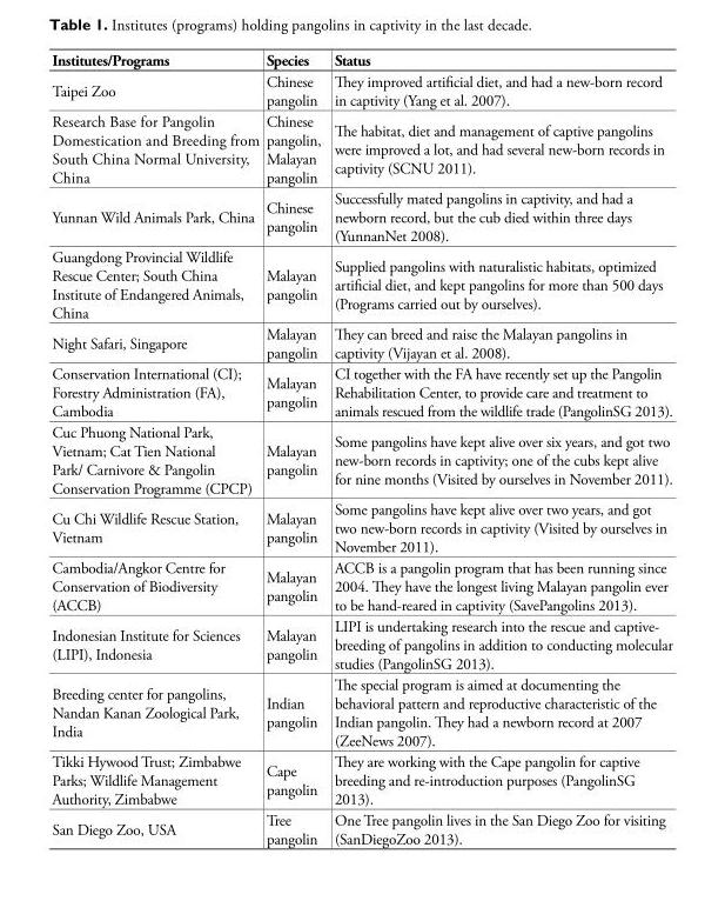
<table><thead><tr><td>Institutes/Programs</td><td>Species</td><td>Status</td></tr></thead><tbody><tr><td>Taipei Zoo</td><td>Chinese pangolin</td><td>They improved artificial diet, and had a new-born record in captivity (Yang et al. 2007).</td></tr><tr><td>Research Base for Pangolin Domestication and Breeding from South China Normal University, China</td><td>Chinese pangolin, Malayan pangolin</td><td>The habitat, diet and management of captive pangolins were improved a lot, and had several new-born records in captivity (SCNU 2011).</td></tr><tr><td>Yunnan Wild Animals Park, China</td><td>Chinese pangolin</td><td>Successfully mated pangolins in captivity, and had a newborn record, but the cub died within three days (YunnanNet 2008).</td></tr><tr><td>Guangdong Provincial Wildlife Rescue Center; South China Institute of Endangered Animals, China</td><td>Malayan pangolin</td><td>Supplied pangolins with naturalistic habitats, optimized artificial diet, and kept pangolins for more than 500 days (Programs carried out by ourselves).</td></tr><tr><td>Night Safari, Singapore</td><td>Malayan pangolin</td><td>They can breed and raise the Malayan pangolins in captivity (Vijayan et al. 2008).</td></tr><tr><td>Conservation International (CI); Forestry Administration (FA), Cambodia</td><td>Malayan pangolin</td><td>CI together with the FA have recently set up the Pangolin Rehabilitation Center, to provide care and treatment to animals rescued from the wildlife trade (PangolinSG 2013).</td></tr><tr><td>Cuc Phuong National Park, Vietnam; Cat Tien National Park/ Carnivore &amp; Pangolin Conservation Programme (CPCP)</td><td>Malayan pangolin</td><td>Some pangolins have kept alive over six years, and got two new-born records in captivity; one of the cubs kept alive for nine months (Visited by ourselves in November 2011).</td></tr><tr><td>Cu Chi Wildlife Rescue Station, Vietnam</td><td>Malayan pangolin</td><td>Some pangolins have kept alive over two years, and got two new-born records in captivity (Visited by ourselves in November 2011).</td></tr><tr><td>Cambodia/Angkor Centre for Conservation of Biodiversity (ACCB)</td><td>Malayan pangolin</td><td>ACCB is a pangolin program that has been running since 2004. They have the longest living Malayan pangolin ever to be hand-reared in captivity (SavePangolins 2013).</td></tr><tr><td>Indonesian Institute for Sciences (LIPI), Indonesia</td><td>Malayan pangolin</td><td>LIPI is undertaking research into the rescue and captive- breeding of pangolins in addition to conducting molecular studies (PangolinSG 2013).</td></tr><tr><td>Breeding center for pangolins, Nandan Kanan Zoological Park, India</td><td>Indian pangolin</td><td>The special program is aimed at documenting the behavioral pattern and reproductive characteristic of the Indian pangolin. They had a newborn record at 2007 (ZeeNews 2007).</td></tr><tr><td>Tikki Hywood Trust; Zimbabwe Parks; Wildlife Management Authority, Zimbabwe</td><td>Cape pangolin</td><td>They are working with the Cape pangolin for captive breeding and re-introduction purposes (PangolinSG 2013).</td></tr><tr><td>San Diego Zoo, USA</td><td>Tree pangolin</td><td>One Tree pangolin lives in the San Diego Zoo for visiting (SanDiegoZoo 2013).</td></tr></tbody></table>